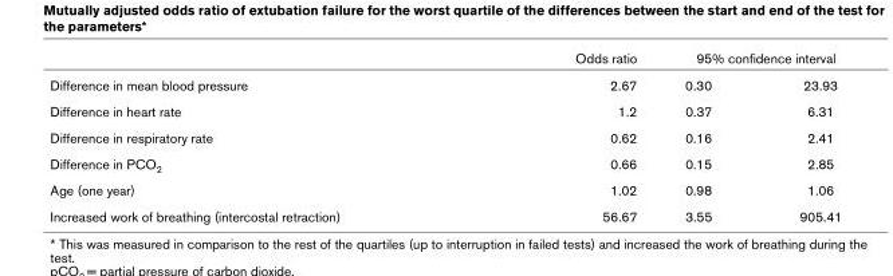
<table><thead><tr><td rowspan="2">Difference in mean blood pressure</td><td rowspan="2">Odds ratio 2.67</td><td colspan="2">95% confidence interval</td></tr><tr><td>0.30</td><td>23.93</td></tr></thead><tbody><tr><td>Difference in heart rate</td><td>1.2</td><td>0.37</td><td>6.31</td></tr><tr><td>Difference in respiratory rate</td><td>0.62</td><td>0.16</td><td>2.41</td></tr><tr><td>Difference in PCO<sub>2</sub></td><td>0.66</td><td>0.15</td><td>2.85</td></tr><tr><td>Age (one year)</td><td>1.02</td><td>0.98</td><td>1.06</td></tr><tr><td>Increased work of breathing (intercostal retraction)</td><td>56.67</td><td>3.55</td><td>905.41</td></tr></tbody></table>